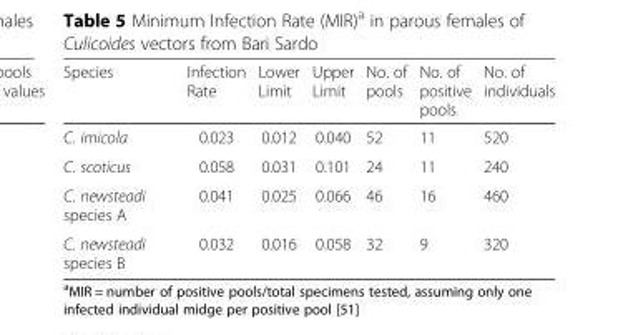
<table><thead><tr><td>Species</td><td>Infection Rate</td><td>Lower Limit</td><td>Upper Limit</td><td>No. of pools</td><td>No. of positive pools</td><td>No. of individuals</td></tr></thead><tbody><tr><td>C. imicola</td><td>0.023</td><td>0.012</td><td>0.040</td><td>52</td><td>11</td><td>520</td></tr><tr><td>C. scoticus</td><td>0.058</td><td>0.031</td><td>0.101</td><td>24</td><td>11</td><td>240</td></tr><tr><td>C. newsteadi species A</td><td>0.041</td><td>0.025</td><td>0.066</td><td>46</td><td>16</td><td>460</td></tr><tr><td>C. newsteadi species B</td><td>0.032</td><td>0.016</td><td>0.058</td><td>32</td><td>9</td><td>320</td></tr></tbody></table>